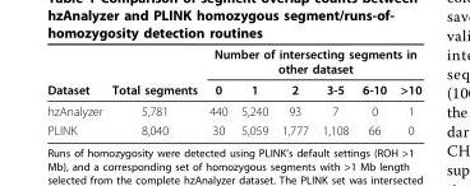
<table><thead><tr><td rowspan="2">Dataset</td><td rowspan="2">Total segments</td><td colspan="6">Number of intersecting segments in other dataset</td></tr><tr><td>0</td><td>1</td><td>2</td><td>3-5</td><td>6-10</td><td>&gt;10</td></tr></thead><tbody><tr><td>hzAnalyzer</td><td>5,781</td><td>440</td><td>5,240</td><td>93</td><td>7</td><td>0</td><td>1</td></tr><tr><td>PLINK</td><td>8,040</td><td>30</td><td>5,059</td><td>1,777</td><td>1,108</td><td>66</td><td>0</td></tr></tbody></table>